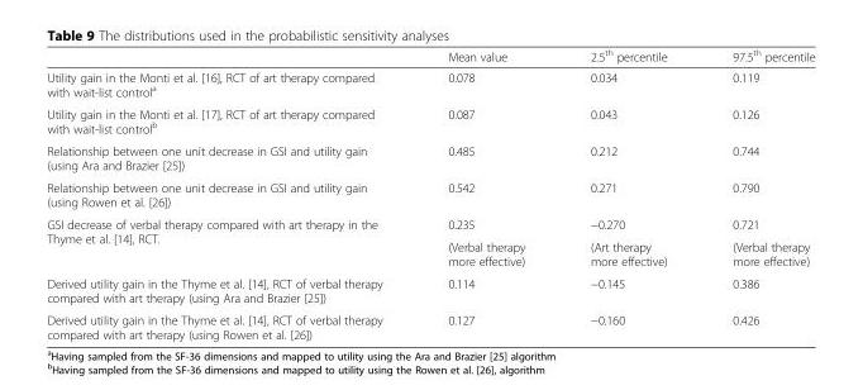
<table><thead><tr><td></td><td>Mean value</td><td>2.5<sup>th</sup> percentile</td><td>97.5<sup>th</sup> percentile</td></tr></thead><tbody><tr><td>Utility gain in the Monti et al. [16], RCT of art therapy compared with wait-list control<sup>a</sup></td><td>0.078</td><td>0.034</td><td>0.119</td></tr><tr><td>Utility gain in the Monti et al. [17], RCT of art therapy compared with wait-list control<sup>b</sup></td><td>0.087</td><td>0.043</td><td>0.126</td></tr><tr><td>Relationship between one unit decrease in GSI and utility gain (using Ara and Brazier [25])</td><td>0.485</td><td>0.212</td><td>0.744</td></tr><tr><td>Relationship between one unit decrease in GSI and utility gain (using Rowen et al. [26])</td><td>0.542</td><td>0.271</td><td>0.790</td></tr><tr><td rowspan="2">GSI decrease of verbal therapy compared with art therapy in the Thyme et al. [14], RCT.</td><td>0.235</td><td>−0.270</td><td>0.721</td></tr><tr><td>(Verbal therapy more effective)</td><td>(Art therapy more effective)</td><td>(Verbal therapy more effective)</td></tr><tr><td>Derived utility gain in the Thyme et al. [14], RCT of verbal therapy compared with art therapy (using Ara and Brazier [25])</td><td>0.114</td><td>−0.145</td><td>0.386</td></tr><tr><td>Derived utility gain in the Thyme et al. [14], RCT of verbal therapy compared with art therapy (using Rowen et al. [26])</td><td>0.127</td><td>−0.160</td><td>0.426</td></tr></tbody></table>